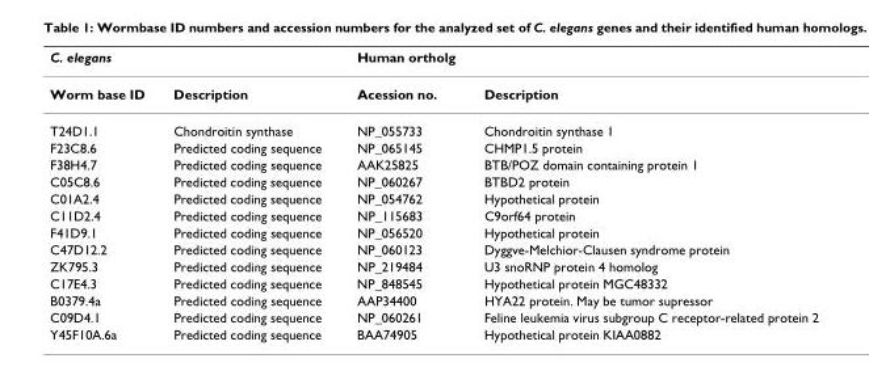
<table><thead><tr><td>C. elegans</td><td></td><td>Human ortholg</td><td></td></tr></thead><tbody><tr><td>Worm base ID</td><td>Description</td><td>Acession no.</td><td>Description</td></tr><tr><td>T24D1.1</td><td>Chondroitin synthase</td><td>NP_055733</td><td>Chondroitin synthase 1</td></tr><tr><td>F23C8.6</td><td>Predicted coding sequence</td><td>NP_065145</td><td>CHMP1.5 protein</td></tr><tr><td>F38H4.7</td><td>Predicted coding sequence</td><td>AAK25825</td><td>BTB/POZ domain containing protein 1</td></tr><tr><td>C05C8.6</td><td>Predicted coding sequence</td><td>NP_060267</td><td>BTBD2 protein</td></tr><tr><td>C01A2.4</td><td>Predicted coding sequence</td><td>NP_054762</td><td>Hypothetical protein</td></tr><tr><td>C11D2.4</td><td>Predicted coding sequence</td><td>NP_115683</td><td>C9orf64 protein</td></tr><tr><td>F41D9.1</td><td>Predicted coding sequence</td><td>NP_056520</td><td>Hypothetical protein</td></tr><tr><td>C47D12.2</td><td>Predicted coding sequence</td><td>NP_060123</td><td>Dyggve-Melchior-Clausen syndrome protein</td></tr><tr><td>ZK795.3</td><td>Predicted coding sequence</td><td>NP_219484</td><td>U3 snoRNP protein 4 homolog</td></tr><tr><td>C17E4.3</td><td>Predicted coding sequence</td><td>NP_848545</td><td>Hypothetical protein MGC48332</td></tr><tr><td>B0379.4a</td><td>Predicted coding sequence</td><td>AAP34400</td><td>HYA22 protein. May be tumor supressor</td></tr><tr><td>C09D4.1</td><td>Predicted coding sequence</td><td>NP_060261</td><td>Feline leukemia virus subgroup C receptor-related protein 2</td></tr><tr><td>Y45F10A.6a</td><td>Predicted coding sequence</td><td>BAA74905</td><td>Hypothetical protein KIAA0882</td></tr></tbody></table>